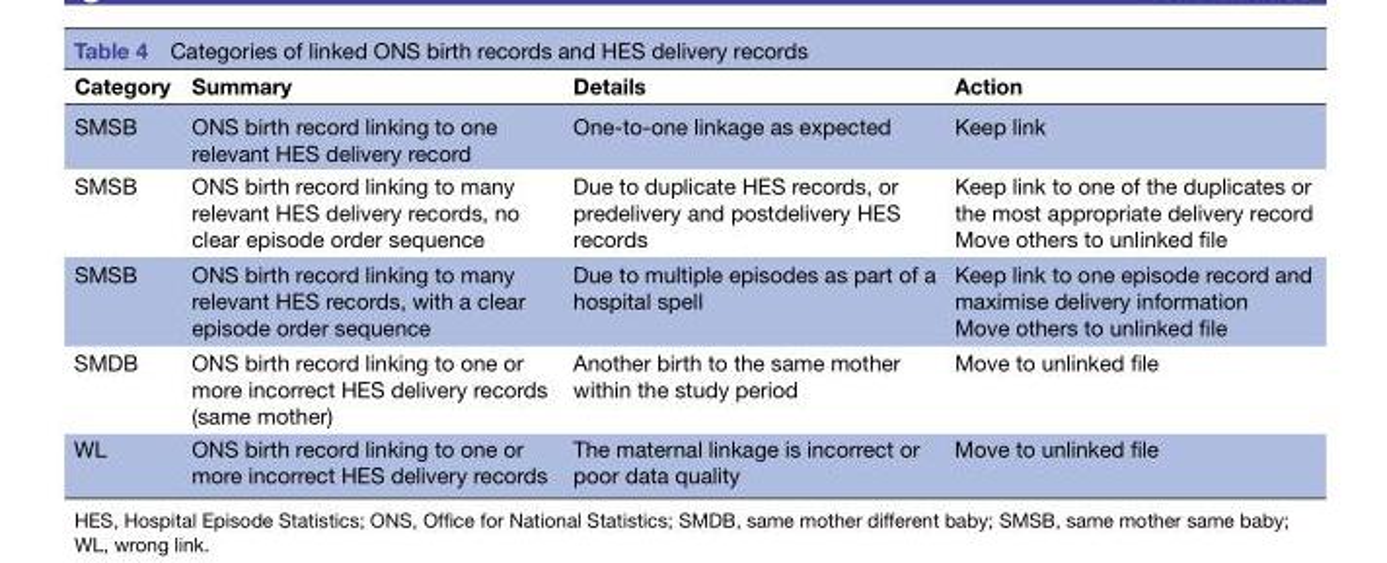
<table><thead><tr><td>Category</td><td>Summary</td><td>Details</td><td>Action</td></tr></thead><tbody><tr><td>SMSB</td><td>ONS birth record linking to one relevant HES delivery record</td><td>One-to-one linkage as expected</td><td>Keep link</td></tr><tr><td>SMSB</td><td>ONS birth record linking to many relevant HES delivery records, no clear episode order sequence</td><td>Due to duplicate HES records, or predelivery and postdelivery HES records</td><td>Keep link to one of the duplicates or the most appropriate delivery record Move others to unlinked file</td></tr><tr><td>SMSB</td><td>ONS birth record linking to many relevant HES records, with a clear episode order sequence</td><td>Due to multiple episodes as part of a hospital spell</td><td>Keep link to one episode record and maximise delivery information Move others to unlinked file</td></tr><tr><td>SMDB</td><td>ONS birth record linking to one or more incorrect HES delivery records (same mother)</td><td>Another birth to the same mother within the study period</td><td>Move to unlinked file</td></tr><tr><td>WL</td><td>ONS birth record linking to one or more incorrect HES delivery records</td><td>The maternal linkage is incorrect or poor data quality</td><td>Move to unlinked file</td></tr></tbody></table>